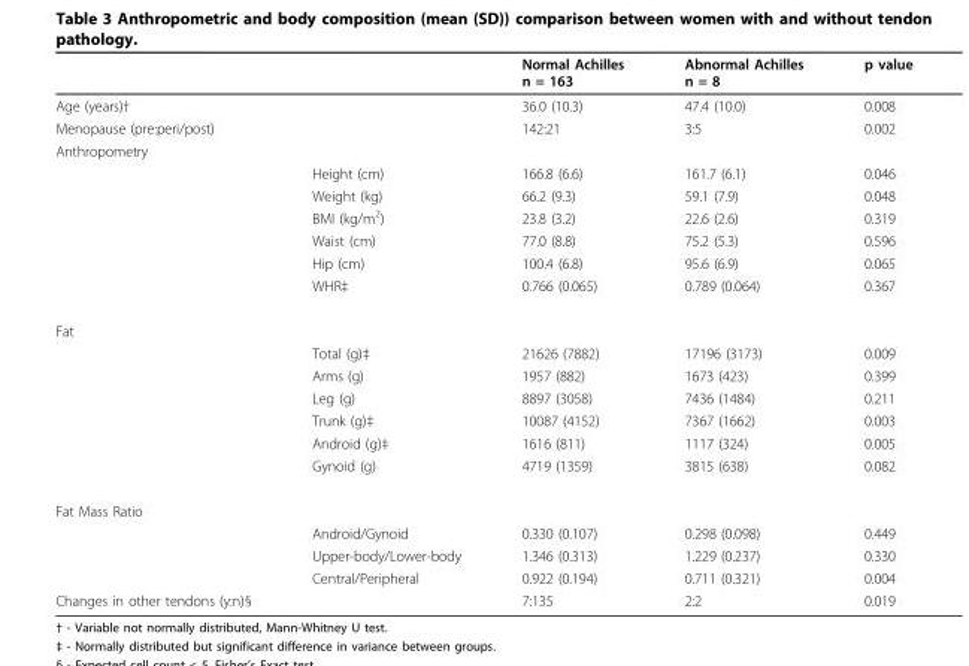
<table><thead><tr><td></td><td></td><td>Normal Achilles n = 163</td><td>Abnormal Achilles n = 8</td><td>p value</td></tr></thead><tbody><tr><td>Age (years)†</td><td></td><td>36.0 (10.3)</td><td>47.4 (10.0)</td><td>0.008</td></tr><tr><td>Menopause (pre:peri/post)</td><td></td><td>142:21</td><td>3:5</td><td>0.002</td></tr><tr><td colspan="5">Anthropometry</td></tr><tr><td></td><td>Height (cm)</td><td>166.8 (6.6)</td><td>161.7 (6.1)</td><td>0.046</td></tr><tr><td></td><td>Weight (kg)</td><td>66.2 (9.3)</td><td>59.1 (7.9)</td><td>0.048</td></tr><tr><td></td><td>BMI (kg/m<sup>2</sup>)</td><td>23.8 (3.2)</td><td>22.6 (2.6)</td><td>0.319</td></tr><tr><td></td><td>Waist (cm)</td><td>77.0 (8.8)</td><td>75.2 (5.3)</td><td>0.596</td></tr><tr><td></td><td>Hip (cm)</td><td>100.4 (6.8)</td><td>95.6 (6.9)</td><td>0.065</td></tr><tr><td></td><td>WHR‡</td><td>0.766 (0.065)</td><td>0.789 (0.064)</td><td>0.367</td></tr><tr><td colspan="5">Fat</td></tr><tr><td></td><td>Total (g)‡</td><td>21626 (7882)</td><td>17196 (3173)</td><td>0.009</td></tr><tr><td></td><td>Arms (g)</td><td>1957 (882)</td><td>1673 (423)</td><td>0.399</td></tr><tr><td></td><td>Leg (g)</td><td>8897 (3058)</td><td>7436 (1484)</td><td>0.211</td></tr><tr><td></td><td>Trunk (g)‡</td><td>10087 (4152)</td><td>7367 (1662)</td><td>0.003</td></tr><tr><td></td><td>Android (g)‡</td><td>1616 (811)</td><td>1117 (324)</td><td>0.005</td></tr><tr><td></td><td>Gynoid (g)</td><td>4719 (1359)</td><td>3815 (638)</td><td>0.082</td></tr><tr><td colspan="5">Fat Mass Ratio</td></tr><tr><td></td><td>Android/Gynoid</td><td>0.330 (0.107)</td><td>0.298 (0.098)</td><td>0.449</td></tr><tr><td></td><td>Upper-body/Lower-body</td><td>1.346 (0.313)</td><td>1.229 (0.237)</td><td>0.330</td></tr><tr><td></td><td>Central/Peripheral</td><td>0.922 (0.194)</td><td>0.711 (0.321)</td><td>0.004</td></tr><tr><td>Changes in other tendons (y:n)§</td><td></td><td>7:135</td><td>2:2</td><td>0.019</td></tr></tbody></table>